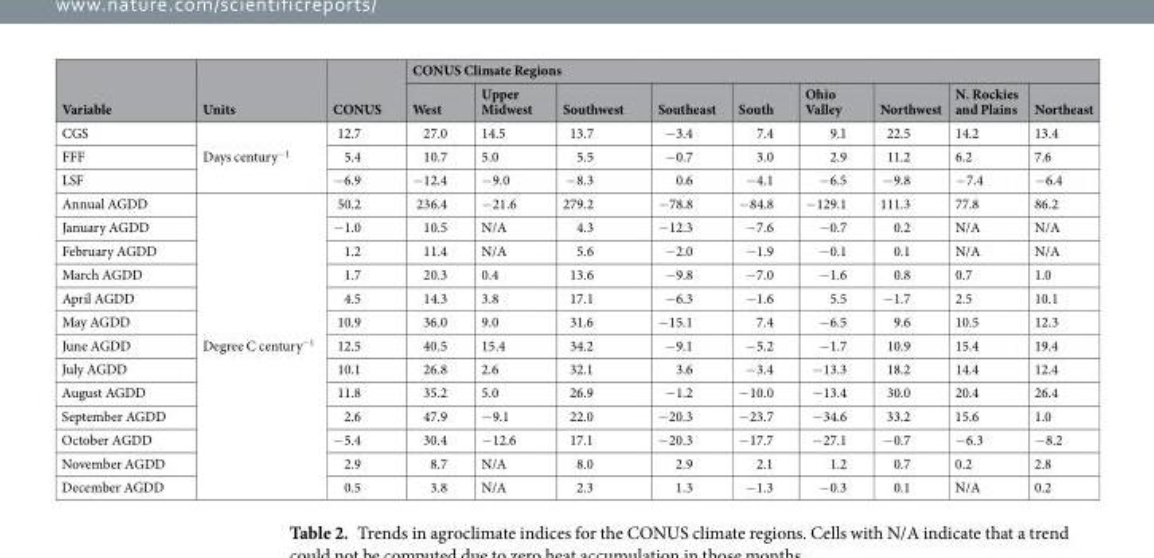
<table><thead><tr><td rowspan="2">Variable</td><td rowspan="2">Units</td><td rowspan="2">CONUS</td><td colspan="9">CONUS Climate Regions</td></tr><tr><td>West</td><td>Upper Midwest</td><td>Southwest</td><td>Southeast</td><td>South</td><td>Ohio Valley</td><td>Northwest</td><td>N. Rockies and Plains</td><td>Northeast</td></tr></thead><tbody><tr><td>CGS</td><td rowspan="3">Days century<sup>−1</sup></td><td>12.7</td><td>27.0</td><td>14.5</td><td>13.7</td><td>−3.4</td><td>7.4</td><td>9.1</td><td>22.5</td><td>14.2</td><td>13.4</td></tr><tr><td>FFF</td><td>5.4</td><td>10.7</td><td>5.0</td><td>5.5</td><td>−0.7</td><td>3.0</td><td>2.9</td><td>11.2</td><td>6.2</td><td>7.6</td></tr><tr><td>LSF</td><td>−6.9</td><td>−12.4</td><td>−9.0</td><td>−8.3</td><td>0.6</td><td>−4.1</td><td>−6.5</td><td>−9.8</td><td>−7.4</td><td>−6.4</td></tr><tr><td>Annual AGDD</td><td rowspan="13">Degree C century<sup>−1</sup></td><td>50.2</td><td>236.4</td><td>−21.6</td><td>279.2</td><td>−78.8</td><td>−84.8</td><td>−129.1</td><td>111.3</td><td>77.8</td><td>86.2</td></tr><tr><td>January AGDD</td><td>−1.0</td><td>10.5</td><td>N/A</td><td>4.3</td><td>−12.3</td><td>−7.6</td><td>−0.7</td><td>0.2</td><td>N/A</td><td>N/A</td></tr><tr><td>February AGDD</td><td>1.2</td><td>11.4</td><td>N/A</td><td>5.6</td><td>−2.0</td><td>−1.9</td><td>−0.1</td><td>0.1</td><td>N/A</td><td>N/A</td></tr><tr><td>March AGDD</td><td>1.7</td><td>20.3</td><td>0.4</td><td>13.6</td><td>−9.8</td><td>−7.0</td><td>−1.6</td><td>0.8</td><td>0.7</td><td>1.0</td></tr><tr><td>April AGDD</td><td>4.5</td><td>14.3</td><td>3.8</td><td>17.1</td><td>−6.3</td><td>−1.6</td><td>5.5</td><td>−1.7</td><td>2.5</td><td>10.1</td></tr><tr><td>May AGDD</td><td>10.9</td><td>36.0</td><td>9.0</td><td>31.6</td><td>−15.1</td><td>7.4</td><td>−6.5</td><td>9.6</td><td>10.5</td><td>12.3</td></tr><tr><td>June AGDD</td><td>12.5</td><td>40.5</td><td>15.4</td><td>34.2</td><td>−9.1</td><td>−5.2</td><td>−1.7</td><td>10.9</td><td>15.4</td><td>19.4</td></tr><tr><td>July AGDD</td><td>10.1</td><td>26.8</td><td>2.6</td><td>32.1</td><td>3.6</td><td>−3.4</td><td>−13.3</td><td>18.2</td><td>14.4</td><td>12.4</td></tr><tr><td>August AGDD</td><td>11.8</td><td>35.2</td><td>5.0</td><td>26.9</td><td>−1.2</td><td>−10.0</td><td>−13.4</td><td>30.0</td><td>20.4</td><td>26.4</td></tr><tr><td>September AGDD</td><td>2.6</td><td>47.9</td><td>−9.1</td><td>22.0</td><td>−20.3</td><td>−23.7</td><td>−34.6</td><td>33.2</td><td>15.6</td><td>1.0</td></tr><tr><td>October AGDD</td><td>−5.4</td><td>30.4</td><td>−12.6</td><td>17.1</td><td>−20.3</td><td>−17.7</td><td>−27.1</td><td>−0.7</td><td>−6.3</td><td>−8.2</td></tr><tr><td>November AGDD</td><td>2.9</td><td>8.7</td><td>N/A</td><td>8.0</td><td>2.9</td><td>2.1</td><td>1.2</td><td>0.7</td><td>0.2</td><td>2.8</td></tr><tr><td>December AGDD</td><td>0.5</td><td>3.8</td><td>N/A</td><td>2.3</td><td>1.3</td><td>−1.3</td><td>−0.3</td><td>0.1</td><td>N/A</td><td>0.2</td></tr></tbody></table>